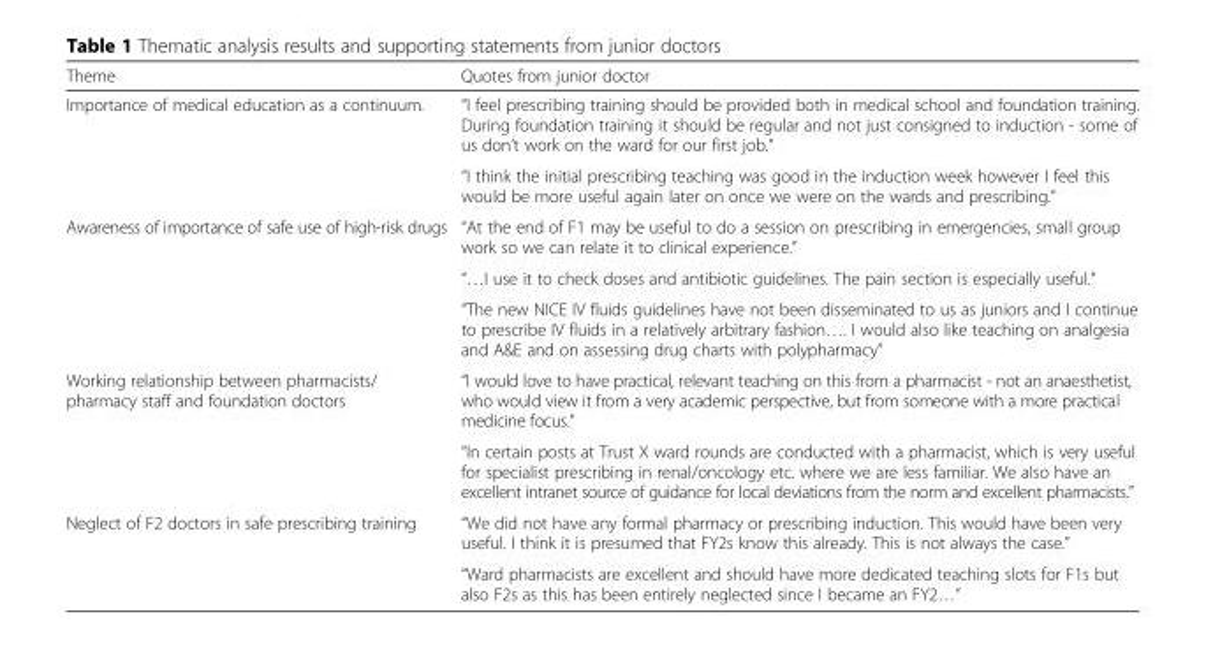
<table><thead><tr><td>Theme</td><td>Quotes from junior doctor</td></tr></thead><tbody><tr><td rowspan="2">Importance of medical education as a continuum.</td><td>“I feel prescribing training should be provided both in medical school and foundation training. During foundation training it should be regular and not just consigned to induction - some of us don’t work on the ward for our first job.”</td></tr><tr><td>“I think the initial prescribing teaching was good in the induction week however I feel this would be more useful again later on once we were on the wards and prescribing.”</td></tr><tr><td rowspan="3">Awareness of importance of safe use of high-risk drugs</td><td>“At the end of F1 may be useful to do a session on prescribing in emergencies, small group work so we can relate it to clinical experience.”</td></tr><tr><td>“…I use it to check doses and antibiotic guidelines. The pain section is especially useful.”</td></tr><tr><td>“The new NICE IV fluids guidelines have not been disseminated to us as juniors and I continue to prescribe IV fluids in a relatively arbitrary fashion…. I would also like teaching on analgesia and A&amp;E and on assessing drug charts with polypharmacy”</td></tr><tr><td rowspan="2">Working relationship between pharmacists/ pharmacy staff and foundation doctors</td><td>“I would love to have practical, relevant teaching on this from a pharmacist - not an anaesthetist, who would view it from a very academic perspective, but from someone with a more practical medicine focus.”</td></tr><tr><td>“In certain posts at Trust X ward rounds are conducted with a pharmacist, which is very useful for specialist prescribing in renal/oncology etc. where we are less familiar. We also have an excellent intranet source of guidance for local deviations from the norm and excellent pharmacists.”</td></tr><tr><td rowspan="2">Neglect of F2 doctors in safe prescribing training</td><td>“We did not have any formal pharmacy or prescribing induction. This would have been very useful. I think it is presumed that FY2s know this already. This is not always the case.”</td></tr><tr><td>“Ward pharmacists are excellent and should have more dedicated teaching slots for F1s but also F2s as this has been entirely neglected since I became an FY2…”</td></tr></tbody></table>